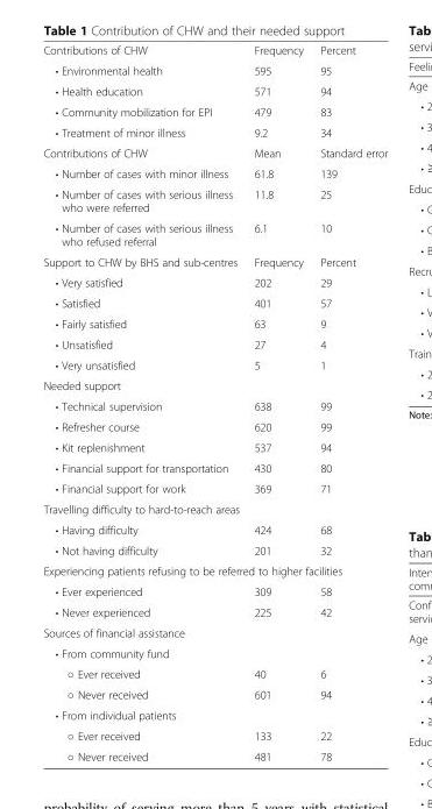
<table><tbody><tr><td>Contributions of CHW</td><td>Frequency</td><td>Percent</td></tr><tr><td>• Environmental health</td><td>595</td><td>95</td></tr><tr><td>• Health education</td><td>571</td><td>94</td></tr><tr><td>• Community mobilization for EPI</td><td>479</td><td>83</td></tr><tr><td>• Treatment of minor illness</td><td>9.2</td><td>34</td></tr><tr><td>Contributions of CHW</td><td>Mean</td><td>Standard error</td></tr><tr><td>• Number of cases with minor illness</td><td>61.8</td><td>139</td></tr><tr><td>• Number of cases with serious illness who were referred</td><td>11.8</td><td>25</td></tr><tr><td>• Number of cases with serious illness who refused referral</td><td>6.1</td><td>10</td></tr><tr><td>Support to CHW by BHS and sub-centres</td><td>Frequency</td><td>Percent</td></tr><tr><td>• Very satisfied</td><td>202</td><td>29</td></tr><tr><td>• Satisfied</td><td>401</td><td>57</td></tr><tr><td>• Fairly satisfied</td><td>63</td><td>9</td></tr><tr><td>• Unsatisfied</td><td>27</td><td>4</td></tr><tr><td>• Very unsatisfied</td><td>5</td><td>1</td></tr><tr><td colspan="3">Needed support</td></tr><tr><td>• Technical supervision</td><td>638</td><td>99</td></tr><tr><td>• Refresher course</td><td>620</td><td>99</td></tr><tr><td>• Kit replenishment</td><td>537</td><td>94</td></tr><tr><td>• Financial support for transportation</td><td>430</td><td>80</td></tr><tr><td>• Financial support for work</td><td>369</td><td>71</td></tr><tr><td colspan="3">Travelling difficulty to hard-to-reach areas</td></tr><tr><td>• Having difficulty</td><td>424</td><td>68</td></tr><tr><td>• Not having difficulty</td><td>201</td><td>32</td></tr><tr><td colspan="3">Experiencing patients refusing to be referred to higher facilities</td></tr><tr><td>• Ever experienced</td><td>309</td><td>58</td></tr><tr><td>• Never experienced</td><td>225</td><td>42</td></tr><tr><td colspan="3">Sources of financial assistance</td></tr><tr><td colspan="3">• From community fund</td></tr><tr><td>○ Ever received</td><td>40</td><td>6</td></tr><tr><td>○ Never received</td><td>601</td><td>94</td></tr><tr><td colspan="3">• From individual patients</td></tr><tr><td>○ Ever received</td><td>133</td><td>22</td></tr><tr><td>○ Never received</td><td>481</td><td>78</td></tr></tbody></table>